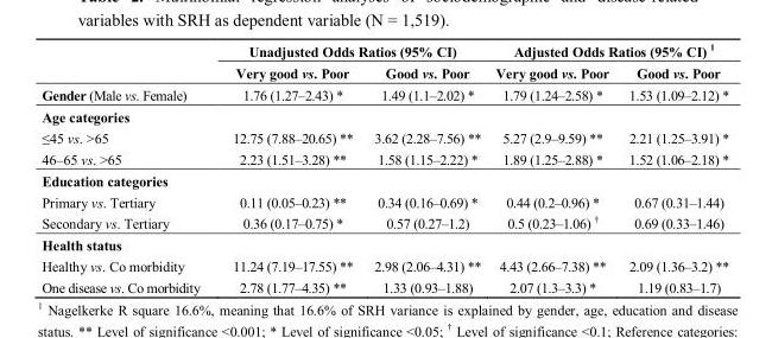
<table><thead><tr><td rowspan="2"></td><td colspan="2">Unadjusted Odds Ratios (95% CI)</td><td colspan="2">Adjusted Odds Ratios (95% CI) <sup>1</sup></td></tr><tr><td>Very good vs. Poor</td><td>Good vs. Poor</td><td>Very good vs. Poor</td><td>Good vs. Poor</td></tr></thead><tbody><tr><td>Gender (Male vs. Female)</td><td>1.76 (1.27–2.43) *</td><td>1.49 (1.1–2.02) *</td><td>1.79 (1.24–2.58) *</td><td>1.53 (1.09–2.12) *</td></tr><tr><td colspan="5">Age categories</td></tr><tr><td>≤45 vs. &gt;65</td><td>12.75 (7.88–20.65) **</td><td>3.62 (2.28–7.56) **</td><td>5.27 (2.9–9.59) **</td><td>2.21 (1.25–3.91) *</td></tr><tr><td>46–65 vs. &gt;65</td><td>2.23 (1.51–3.28) **</td><td>1.58 (1.15–2.22) *</td><td>1.89 (1.25–2.88) *</td><td>1.52 (1.06–2.18) *</td></tr><tr><td colspan="5">Education categories</td></tr><tr><td>Primary vs. Tertiary</td><td>0.11 (0.05–0.23) **</td><td>0.34 (0.16–0.69) *</td><td>0.44 (0.2–0.96) *</td><td>0.67 (0.31–1.44)</td></tr><tr><td>Secondary vs. Tertiary</td><td>0.36 (0.17–0.75) *</td><td>0.57 (0.27–1.2)</td><td>0.5 (0.23–1.06) <sup>†</sup></td><td>0.69 (0.33–1.46)</td></tr><tr><td colspan="5">Health status</td></tr><tr><td>Healthy vs. Co morbidity</td><td>11.24 (7.19–17.55) **</td><td>2.98 (2.06–4.31) **</td><td>4.43 (2.66–7.38) **</td><td>2.09 (1.36–3.2) **</td></tr><tr><td>One disease vs. Co morbidity</td><td>2.78 (1.77–4.35) **</td><td>1.33 (0.93–1.88)</td><td>2.07 (1.3–3.3) *</td><td>1.19 (0.83–1.7)</td></tr></tbody></table>